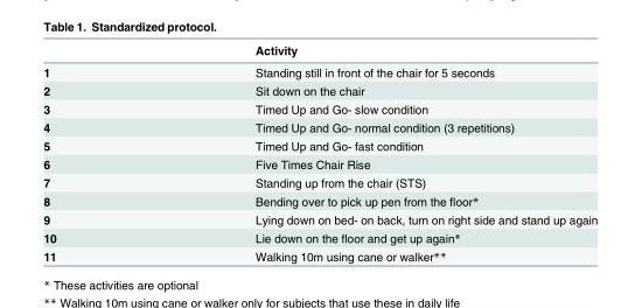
<table><thead><tr><td></td><td>Activity</td></tr></thead><tbody><tr><td>1</td><td>Standing still in front of the chair for 5 seconds</td></tr><tr><td>2</td><td>Sit down on the chair</td></tr><tr><td>3</td><td>Timed Up and Go- slow condition</td></tr><tr><td>4</td><td>Timed Up and Go- normal condition (3 repetitions)</td></tr><tr><td>5</td><td>Timed Up and Go- fast condition</td></tr><tr><td>6</td><td>Five Times Chair Rise</td></tr><tr><td>7</td><td>Standing up from the chair (STS)</td></tr><tr><td>8</td><td>Bending over to pick up pen from the floor*</td></tr><tr><td>9</td><td>Lying down on bed- on back, turn on right side and stand up again</td></tr><tr><td>10</td><td>Lie down on the floor and get up again*</td></tr><tr><td>11</td><td>Walking 10m using cane or walker**</td></tr></tbody></table>